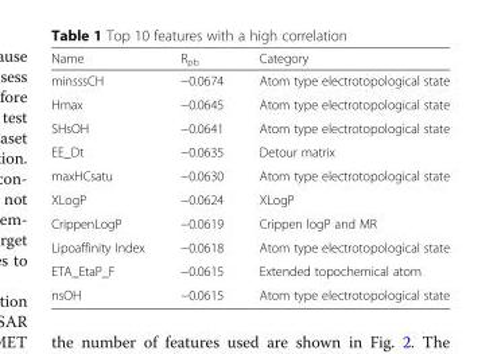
<table><thead><tr><td>Name</td><td>R<sub>pb</sub></td><td>Category</td></tr></thead><tbody><tr><td>minsssCH</td><td>−0.0674</td><td>Atom type electrotopological state</td></tr><tr><td>Hmax</td><td>−0.0645</td><td>Atom type electrotopological state</td></tr><tr><td>SHsOH</td><td>−0.0641</td><td>Atom type electrotopological state</td></tr><tr><td>EE_Dt</td><td>−0.0635</td><td>Detour matrix</td></tr><tr><td>maxHCsatu</td><td>−0.0630</td><td>Atom type electrotopological state</td></tr><tr><td>XLogP</td><td>−0.0624</td><td>XLogP</td></tr><tr><td>CrippenLogP</td><td>−0.0619</td><td>Crippen logP and MR</td></tr><tr><td>Lipoaffinity Index</td><td>−0.0618</td><td>Atom type electrotopological state</td></tr><tr><td>ETA_EtaP_F</td><td>−0.0615</td><td>Extended topochemical atom</td></tr><tr><td>nsOH</td><td>−0.0615</td><td>Atom type electrotopological state</td></tr></tbody></table>